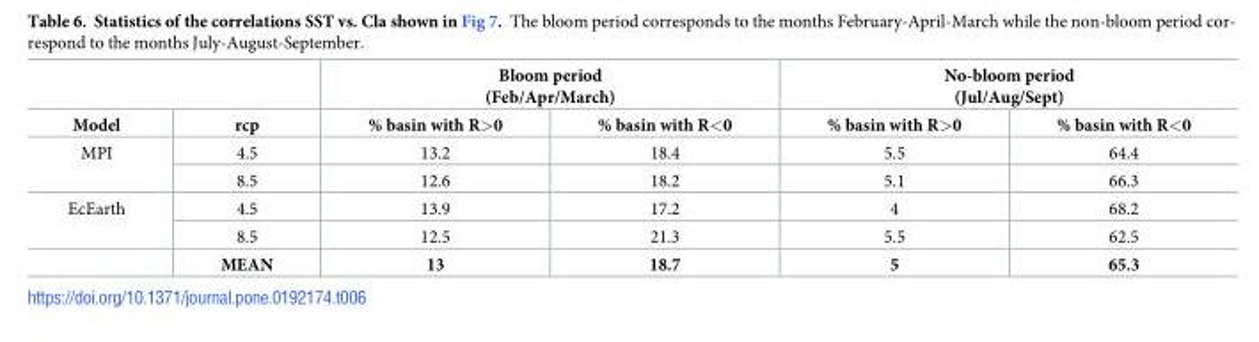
<table><thead><tr><td rowspan="2">Model</td><td rowspan="2">rcp</td><td colspan="2">Bloom period (Feb/Apr/March)</td><td colspan="2">No-bloom period (Jul/Aug/Sept)</td></tr><tr><td>% basin with R&gt;0</td><td>% basin with R&lt;0</td><td>% basin with R&gt;0</td><td>% basin with R&lt;0</td></tr></thead><tbody><tr><td rowspan="2">MPI</td><td>4.5</td><td>13.2</td><td>18.4</td><td>5.5</td><td>64.4</td></tr><tr><td>8.5</td><td>12.6</td><td>18.2</td><td>5.1</td><td>66.3</td></tr><tr><td rowspan="3">EcEarth</td><td>4.5</td><td>13.9</td><td>17.2</td><td>4</td><td>68.2</td></tr><tr><td>8.5</td><td>12.5</td><td>21.3</td><td>5.5</td><td>62.5</td></tr><tr><td>MEAN</td><td>13</td><td>18.7</td><td>5</td><td>65.3</td></tr></tbody></table>